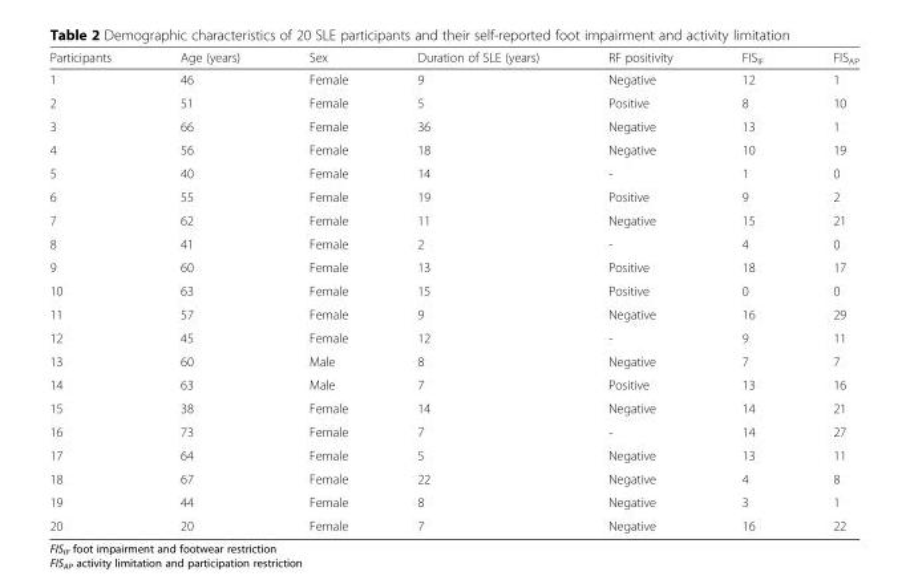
<table><thead><tr><td>Participants</td><td>Age (years)</td><td>Sex</td><td>Duration of SLE (years)</td><td>RF positivity</td><td>FIS<sub>IF</sub></td><td>FIS<sub>AP</sub></td></tr></thead><tbody><tr><td>1</td><td>46</td><td>Female</td><td>9</td><td>Negative</td><td>12</td><td>1</td></tr><tr><td>2</td><td>51</td><td>Female</td><td>5</td><td>Positive</td><td>8</td><td>10</td></tr><tr><td>3</td><td>66</td><td>Female</td><td>36</td><td>Negative</td><td>13</td><td>1</td></tr><tr><td>4</td><td>56</td><td>Female</td><td>18</td><td>Negative</td><td>10</td><td>19</td></tr><tr><td>5</td><td>40</td><td>Female</td><td>14</td><td>-</td><td>1</td><td>0</td></tr><tr><td>6</td><td>55</td><td>Female</td><td>19</td><td>Positive</td><td>9</td><td>2</td></tr><tr><td>7</td><td>62</td><td>Female</td><td>11</td><td>Negative</td><td>15</td><td>21</td></tr><tr><td>8</td><td>41</td><td>Female</td><td>2</td><td>-</td><td>4</td><td>0</td></tr><tr><td>9</td><td>60</td><td>Female</td><td>13</td><td>Positive</td><td>18</td><td>17</td></tr><tr><td>10</td><td>63</td><td>Female</td><td>15</td><td>Positive</td><td>0</td><td>0</td></tr><tr><td>11</td><td>57</td><td>Female</td><td>9</td><td>Negative</td><td>16</td><td>29</td></tr><tr><td>12</td><td>45</td><td>Female</td><td>12</td><td>-</td><td>9</td><td>11</td></tr><tr><td>13</td><td>60</td><td>Male</td><td>8</td><td>Negative</td><td>7</td><td>7</td></tr><tr><td>14</td><td>63</td><td>Male</td><td>7</td><td>Positive</td><td>13</td><td>16</td></tr><tr><td>15</td><td>38</td><td>Female</td><td>14</td><td>Negative</td><td>14</td><td>21</td></tr><tr><td>16</td><td>73</td><td>Female</td><td>7</td><td>-</td><td>14</td><td>27</td></tr><tr><td>17</td><td>64</td><td>Female</td><td>5</td><td>Negative</td><td>13</td><td>11</td></tr><tr><td>18</td><td>67</td><td>Female</td><td>22</td><td>Negative</td><td>4</td><td>8</td></tr><tr><td>19</td><td>44</td><td>Female</td><td>8</td><td>Negative</td><td>3</td><td>1</td></tr><tr><td>20</td><td>20</td><td>Female</td><td>7</td><td>Negative</td><td>16</td><td>22</td></tr></tbody></table>